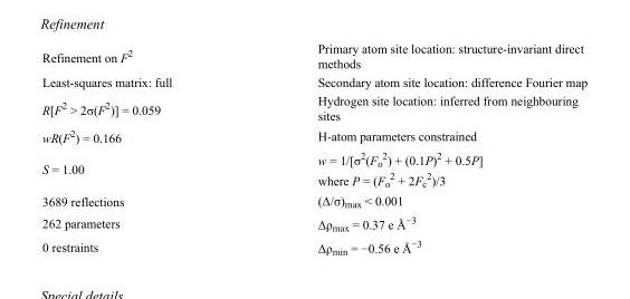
<table><tbody><tr><td>Refinement on F<sup>2</sup></td><td>Primary atom site location: structure-invariant direct methods</td></tr><tr><td>Least-squares matrix: full</td><td>Secondary atom site location: difference Fourier map</td></tr><tr><td>R[F<sup>2</sup> &gt; 2σ(F<sup>2</sup>)] = 0.059</td><td>Hydrogen site location: inferred from neighbouring sites</td></tr><tr><td>wR(F<sup>2</sup>) = 0.166</td><td>H-atom parameters constrained</td></tr><tr><td>S = 1.00</td><td>w = 1/[σ<sup>2</sup>(F<sub>o</sub> <sup>2</sup>) + (0.1P)<sup>2</sup> + 0.5P] where P = (F<sub>o</sub> <sup>2</sup> + 2F<sub>c</sub> <sup>2</sup>)/3</td></tr><tr><td>3689 reflections</td><td>(Δ/σ)<sub>max</sub> &lt; 0.001</td></tr><tr><td>262 parameters</td><td>Δρ<sub>max</sub> = 0.37 e Å<sup>−3</sup></td></tr><tr><td>0 restraints</td><td>Δρ<sub>min</sub> = −0.56 e Å<sup>−3</sup></td></tr></tbody></table>